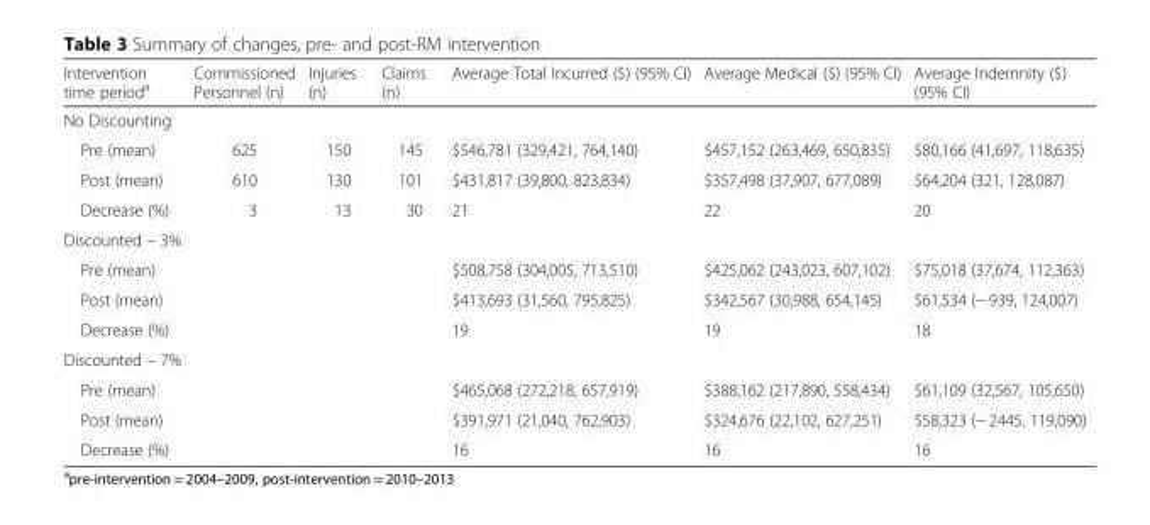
<table><thead><tr><td>Intervention time period<sup>a</sup></td><td>Commissioned Personnel (n)</td><td>Injuries (n)</td><td>Claims (n)</td><td>Average Total Incurred ($) (95% CI)</td><td>Average Medical ($) (95% CI)</td><td>Average Indemnity ($) (95% CI)</td></tr></thead><tbody><tr><td colspan="7">No Discounting</td></tr><tr><td>Pre (mean)</td><td>625</td><td>150</td><td>145</td><td>$546,781 (329,421, 764,140)</td><td>$457,152 (263,469, 650,835)</td><td>$80,166 (41,697, 118,635)</td></tr><tr><td>Post (mean)</td><td>610</td><td>130</td><td>101</td><td>$431,817 (39,800, 823,834)</td><td>$357,498 (37,907, 677,089)</td><td>$64,204 (321, 128,087)</td></tr><tr><td>Decrease (%)</td><td>3</td><td>13</td><td>30</td><td>21</td><td>22</td><td>20</td></tr><tr><td colspan="7">Discounted – 3%</td></tr><tr><td>Pre (mean)</td><td></td><td></td><td></td><td>$508,758 (304,005, 713,510)</td><td>$425,062 (243,023, 607,102)</td><td>$75,018 (37,674, 112,363)</td></tr><tr><td>Post (mean)</td><td></td><td></td><td></td><td>$413,693 (31,560, 795,825)</td><td>$342,567 (30,988, 654,145)</td><td>$61,534 (− 939, 124,007)</td></tr><tr><td>Decrease (%)</td><td></td><td></td><td></td><td>19</td><td>19</td><td>18</td></tr><tr><td colspan="7">Discounted – 7%</td></tr><tr><td>Pre (mean)</td><td></td><td></td><td></td><td>$465,068 (272,218, 657,919)</td><td>$388,162 (217,890, 558,434)</td><td>$61,109 (32,567, 105,650)</td></tr><tr><td>Post (mean)</td><td></td><td></td><td></td><td>$391,971 (21,040, 762,903)</td><td>$324,676 (22,102, 627,251)</td><td>$58,323 (− 2445, 119,090)</td></tr><tr><td>Decrease (%)</td><td></td><td></td><td></td><td>16</td><td>16</td><td>16</td></tr></tbody></table>